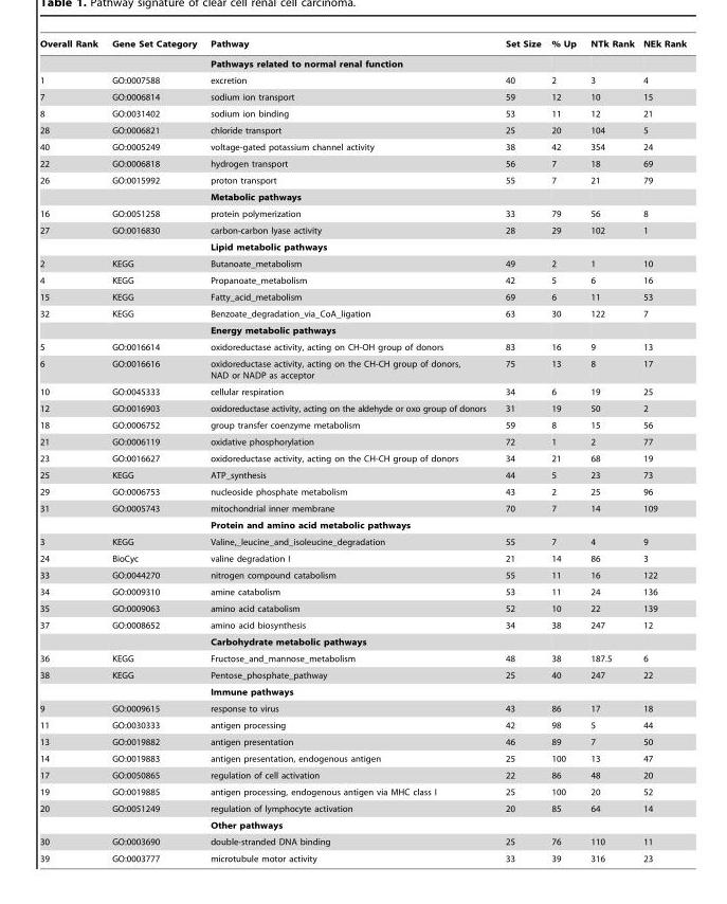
<table><thead><tr><td>Overall Rank</td><td>Gene Set Category</td><td>Pathway</td><td>Set Size</td><td>% Up</td><td>NTk Rank</td><td>NEk Rank</td></tr></thead><tbody><tr><td></td><td></td><td>Pathways related to normal renal function</td><td></td><td></td><td></td><td></td></tr><tr><td>1</td><td>GO:0007588</td><td>excretion</td><td>40</td><td>2</td><td>3</td><td>4</td></tr><tr><td>7</td><td>GO:0006814</td><td>sodium ion transport</td><td>59</td><td>12</td><td>10</td><td>15</td></tr><tr><td>8</td><td>GO:0031402</td><td>sodium ion binding</td><td>53</td><td>11</td><td>12</td><td>21</td></tr><tr><td>28</td><td>GO:0006821</td><td>chloride transport</td><td>25</td><td>20</td><td>104</td><td>5</td></tr><tr><td>40</td><td>GO:0005249</td><td>voltage-gated potassium channel activity</td><td>38</td><td>42</td><td>354</td><td>24</td></tr><tr><td>22</td><td>GO:0006818</td><td>hydrogen transport</td><td>56</td><td>7</td><td>18</td><td>69</td></tr><tr><td rowspan="2">26</td><td>GO:0015992</td><td>proton transport</td><td>55</td><td>7</td><td>21</td><td>79</td></tr><tr><td></td><td>Metabolic pathways</td><td></td><td></td><td></td><td></td></tr><tr><td>16</td><td>GO:0051258</td><td>protein polymerization</td><td>33</td><td>79</td><td>56</td><td>8</td></tr><tr><td rowspan="2">27</td><td>GO:0016830</td><td>carbon-carbon lyase activity</td><td>28</td><td>29</td><td>102</td><td>1</td></tr><tr><td></td><td>Lipid metabolic pathways</td><td></td><td></td><td></td><td></td></tr><tr><td>2</td><td>KEGG</td><td>Butanoate_metabolism</td><td>49</td><td>2</td><td>1</td><td>10</td></tr><tr><td>4</td><td>KEGG</td><td>Propanoate_metabolism</td><td>42</td><td>5</td><td>6</td><td>16</td></tr><tr><td>15</td><td>KEGG</td><td>Fatty_acid_metabolism</td><td>69</td><td>6</td><td>11</td><td>53</td></tr><tr><td rowspan="2">32</td><td>KEGG</td><td>Benzoate_degradation_via_CoA_ligation</td><td>63</td><td>30</td><td>122</td><td>7</td></tr><tr><td></td><td>Energy metabolic pathways</td><td></td><td></td><td></td><td></td></tr><tr><td>5</td><td>GO:0016614</td><td>oxidoreductase activity, acting on CH-OH group of donors</td><td>83</td><td>16</td><td>9</td><td>13</td></tr><tr><td>6</td><td>GO:0016616</td><td>oxidoreductase activity, acting on the CH-CH group of donors, NAD or NADP as acceptor</td><td>75</td><td>13</td><td>8</td><td>17</td></tr><tr><td>10</td><td>GO:0045333</td><td>cellular respiration</td><td>34</td><td>6</td><td>19</td><td>25</td></tr><tr><td>12</td><td>GO:0016903</td><td>oxidoreductase activity, acting on the aldehyde or oxo group of donors</td><td>31</td><td>19</td><td>50</td><td>2</td></tr><tr><td>18</td><td>GO:0006752</td><td>group transfer coenzyme metabolism</td><td>59</td><td>8</td><td>15</td><td>56</td></tr><tr><td>21</td><td>GO:0006119</td><td>oxidative phosphorylation</td><td>72</td><td>1</td><td>2</td><td>77</td></tr><tr><td>23</td><td>GO:0016627</td><td>oxidoreductase activity, acting on the CH-CH group of donors</td><td>34</td><td>21</td><td>68</td><td>19</td></tr><tr><td>25</td><td>KEGG</td><td>ATP_synthesis</td><td>44</td><td>5</td><td>23</td><td>73</td></tr><tr><td>29</td><td>GO:0006753</td><td>nucleoside phosphate metabolism</td><td>43</td><td>2</td><td>25</td><td>96</td></tr><tr><td rowspan="2">31</td><td>GO:0005743</td><td>mitochondrial inner membrane</td><td>70</td><td>7</td><td>14</td><td>109</td></tr><tr><td></td><td>Protein and amino acid metabolic pathways</td><td></td><td></td><td></td><td></td></tr><tr><td>3</td><td>KEGG</td><td>Valine,_leucine_and_isoleucine_degradation</td><td>55</td><td>7</td><td>4</td><td>9</td></tr><tr><td>24</td><td>BioCyc</td><td>valine degradation I</td><td>21</td><td>14</td><td>86</td><td>3</td></tr><tr><td>33</td><td>GO:0044270</td><td>nitrogen compound catabolism</td><td>55</td><td>11</td><td>16</td><td>122</td></tr><tr><td>34</td><td>GO:0009310</td><td>amine catabolism</td><td>53</td><td>11</td><td>24</td><td>136</td></tr><tr><td>35</td><td>GO:0009063</td><td>amino acid catabolism</td><td>52</td><td>10</td><td>22</td><td>139</td></tr><tr><td rowspan="2">37</td><td>GO:0008652</td><td>amino acid biosynthesis</td><td>34</td><td>38</td><td>247</td><td>12</td></tr><tr><td></td><td>Carbohydrate metabolic pathways</td><td></td><td></td><td></td><td></td></tr><tr><td>36</td><td>KEGG</td><td>Fructose_and_mannose_metabolism</td><td>48</td><td>38</td><td>187.5</td><td>6</td></tr><tr><td rowspan="2">38</td><td>KEGG</td><td>Pentose_phosphate_pathway</td><td>25</td><td>40</td><td>247</td><td>22</td></tr><tr><td></td><td>Immune pathways</td><td></td><td></td><td></td><td></td></tr><tr><td>9</td><td>GO:0009615</td><td>response to virus</td><td>43</td><td>86</td><td>17</td><td>18</td></tr><tr><td>11</td><td>GO:0030333</td><td>antigen processing</td><td>42</td><td>98</td><td>5</td><td>44</td></tr><tr><td>13</td><td>GO:0019882</td><td>antigen presentation</td><td>46</td><td>89</td><td>7</td><td>50</td></tr><tr><td>14</td><td>GO:0019883</td><td>antigen presentation, endogenous antigen</td><td>25</td><td>100</td><td>13</td><td>47</td></tr><tr><td>17</td><td>GO:0050865</td><td>regulation of cell activation</td><td>22</td><td>86</td><td>48</td><td>20</td></tr><tr><td>19</td><td>GO:0019885</td><td>antigen processing, endogenous antigen via MHC class I</td><td>25</td><td>100</td><td>20</td><td>52</td></tr><tr><td rowspan="2">20</td><td>GO:0051249</td><td>regulation of lymphocyte activation</td><td>20</td><td>85</td><td>64</td><td>14</td></tr><tr><td></td><td>Other pathways</td><td></td><td></td><td></td><td></td></tr><tr><td>30</td><td>GO:0003690</td><td>double-stranded DNA binding</td><td>25</td><td>76</td><td>110</td><td>11</td></tr><tr><td>39</td><td>GO:0003777</td><td>microtubule motor activity</td><td>33</td><td>39</td><td>316</td><td>23</td></tr></tbody></table>